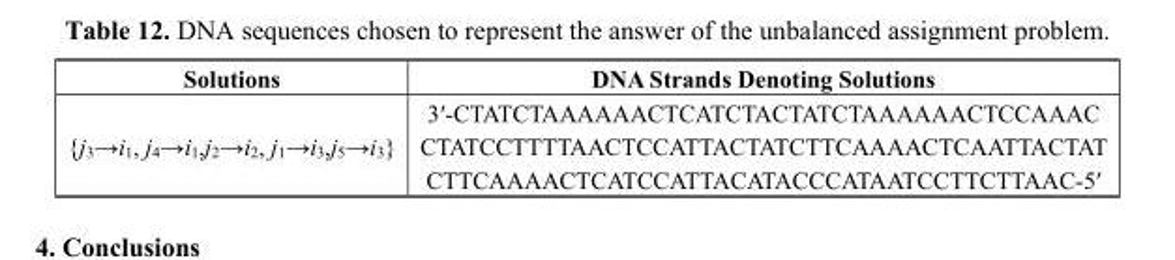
<table><thead><tr><td>Solutions</td><td>DNA Strands Denoting Solutions</td></tr></thead><tbody><tr><td>{j<sub>3</sub>→i<sub>1</sub>, j<sub>4</sub>→i<sub>1</sub>,j<sub>2</sub>→i<sub>2</sub>, j<sub>1</sub>→i<sub>3</sub>,j<sub>5</sub>→i<sub>3</sub>}</td><td>3′-CTATCTAAAAAACTCATCTACTATCTAAAAAACTCCAAAC CTATCCTTTTAACTCCATTACTATCTTCAAAACTCAATTACTAT CTTCAAAACTCATCCATTACATACCCATAATCCTTCTTAAC-5′</td></tr></tbody></table>